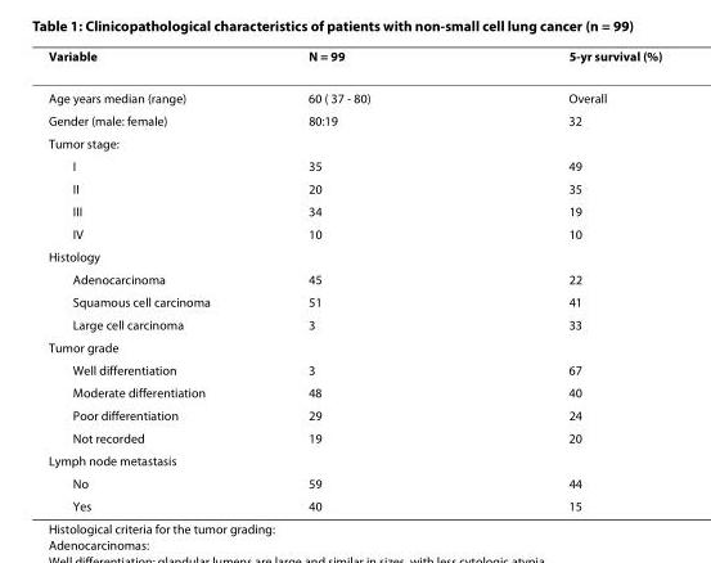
<table><thead><tr><td>Variable</td><td>N = 99</td><td>5-yr survival (%)</td></tr></thead><tbody><tr><td>Age years median (range)</td><td>60 ( 37 - 80)</td><td>Overall</td></tr><tr><td>Gender (male: female)</td><td>80:19</td><td>32</td></tr><tr><td colspan="3">Tumor stage:</td></tr><tr><td>I</td><td>35</td><td>49</td></tr><tr><td>II</td><td>20</td><td>35</td></tr><tr><td>III</td><td>34</td><td>19</td></tr><tr><td>IV</td><td>10</td><td>10</td></tr><tr><td colspan="3">Histology</td></tr><tr><td>Adenocarcinoma</td><td>45</td><td>22</td></tr><tr><td>Squamous cell carcinoma</td><td>51</td><td>41</td></tr><tr><td>Large cell carcinoma</td><td>3</td><td>33</td></tr><tr><td colspan="3">Tumor grade</td></tr><tr><td>Well differentiation</td><td>3</td><td>67</td></tr><tr><td>Moderate differentiation</td><td>48</td><td>40</td></tr><tr><td>Poor differentiation</td><td>29</td><td>24</td></tr><tr><td>Not recorded</td><td>19</td><td>20</td></tr><tr><td colspan="3">Lymph node metastasis</td></tr><tr><td>No</td><td>59</td><td>44</td></tr><tr><td>Yes</td><td>40</td><td>15</td></tr></tbody></table>